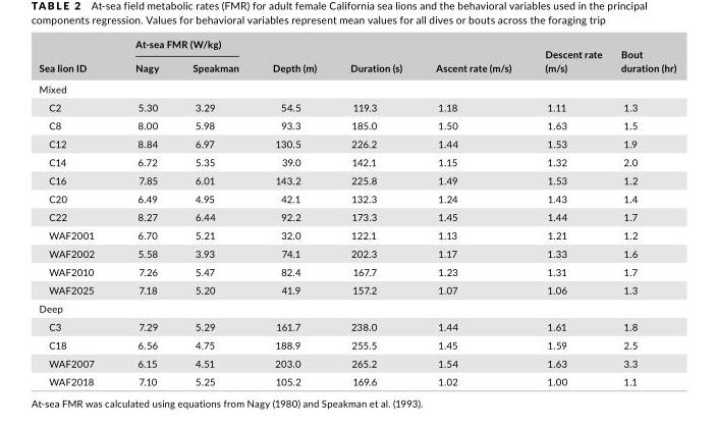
<table><thead><tr><td rowspan="2">Sea lion ID</td><td colspan="2">At- sea FMR (W/kg)</td><td rowspan="2">Depth (m)</td><td rowspan="2">Duration (s)</td><td rowspan="2">Ascent rate (m/s)</td><td rowspan="2">Descent rate (m/s)</td><td rowspan="2">Bout duration (hr)</td></tr><tr><td>Nagy</td><td>Speakman</td></tr></thead><tbody><tr><td colspan="8">Mixed</td></tr><tr><td>C2</td><td>5.30</td><td>3.29</td><td>54.5</td><td>119.3</td><td>1.18</td><td>1.11</td><td>1.3</td></tr><tr><td>C8</td><td>8.00</td><td>5.98</td><td>93.3</td><td>185.0</td><td>1.50</td><td>1.63</td><td>1.5</td></tr><tr><td>C12</td><td>8.84</td><td>6.97</td><td>130.5</td><td>226.2</td><td>1.44</td><td>1.53</td><td>1.9</td></tr><tr><td>C14</td><td>6.72</td><td>5.35</td><td>39.0</td><td>142.1</td><td>1.15</td><td>1.32</td><td>2.0</td></tr><tr><td>C16</td><td>7.85</td><td>6.01</td><td>143.2</td><td>225.8</td><td>1.49</td><td>1.53</td><td>1.2</td></tr><tr><td>C20</td><td>6.49</td><td>4.95</td><td>42.1</td><td>132.3</td><td>1.24</td><td>1.43</td><td>1.4</td></tr><tr><td>C22</td><td>8.27</td><td>6.44</td><td>92.2</td><td>173.3</td><td>1.45</td><td>1.44</td><td>1.7</td></tr><tr><td>WAF2001</td><td>6.70</td><td>5.21</td><td>32.0</td><td>122.1</td><td>1.13</td><td>1.21</td><td>1.2</td></tr><tr><td>WAF2002</td><td>5.58</td><td>3.93</td><td>74.1</td><td>202.3</td><td>1.17</td><td>1.33</td><td>1.6</td></tr><tr><td>WAF2010</td><td>7.26</td><td>5.47</td><td>82.4</td><td>167.7</td><td>1.23</td><td>1.31</td><td>1.7</td></tr><tr><td>WAF2025</td><td>7.18</td><td>5.20</td><td>41.9</td><td>157.2</td><td>1.07</td><td>1.06</td><td>1.3</td></tr><tr><td colspan="8">Deep</td></tr><tr><td>C3</td><td>7.29</td><td>5.29</td><td>161.7</td><td>238.0</td><td>1.44</td><td>1.61</td><td>1.8</td></tr><tr><td>C18</td><td>6.56</td><td>4.75</td><td>188.9</td><td>255.5</td><td>1.45</td><td>1.59</td><td>2.5</td></tr><tr><td>WAF2007</td><td>6.15</td><td>4.51</td><td>203.0</td><td>265.2</td><td>1.54</td><td>1.63</td><td>3.3</td></tr><tr><td>WAF2018</td><td>7.10</td><td>5.25</td><td>105.2</td><td>169.6</td><td>1.02</td><td>1.00</td><td>1.1</td></tr></tbody></table>